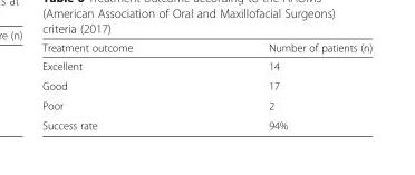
<table><thead><tr><td>Treatment outcome</td><td>Number of patients (n)</td></tr></thead><tbody><tr><td>Excellent</td><td>14</td></tr><tr><td>Good</td><td>17</td></tr><tr><td>Poor</td><td>2</td></tr><tr><td>Success rate</td><td>94%</td></tr></tbody></table>